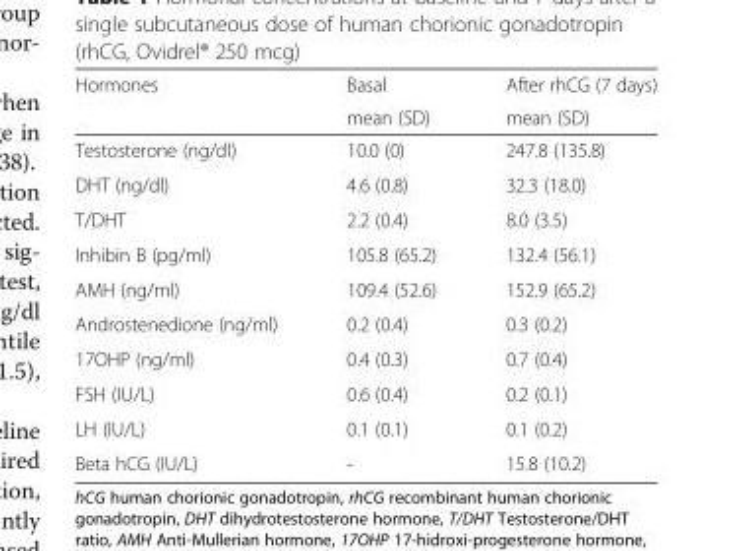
<table><thead><tr><td rowspan="2">Hormones</td><td rowspan="2">Basal mean (SD)</td><td rowspan="2">After rhCG (7 days) mean (SD)</td></tr><tr></tr></thead><tbody><tr><td>Testosterone (ng/dl)</td><td>10.0 (0)</td><td>247.8 (135.8)</td></tr><tr><td>DHT (ng/dl)</td><td>4.6 (0.8)</td><td>32.3 (18.0)</td></tr><tr><td>T/DHT</td><td>2.2 (0.4)</td><td>8.0 (3.5)</td></tr><tr><td>Inhibin B (pg/ml)</td><td>105.8 (65.2)</td><td>132.4 (56.1)</td></tr><tr><td>AMH (ng/ml)</td><td>109.4 (52.6)</td><td>152.9 (65.2)</td></tr><tr><td>Androstenedione (ng/ml)</td><td>0.2 (0.4)</td><td>0.3 (0.2)</td></tr><tr><td>17OHP (ng/ml)</td><td>0.4 (0.3)</td><td>0.7 (0.4)</td></tr><tr><td>FSH (IU/L)</td><td>0.6 (0.4)</td><td>0.2 (0.1)</td></tr><tr><td>LH (IU/L)</td><td>0.1 (0.1)</td><td>0.1 (0.2)</td></tr><tr><td>Beta hCG (IU/L)</td><td>-</td><td>15.8 (10.2)</td></tr></tbody></table>